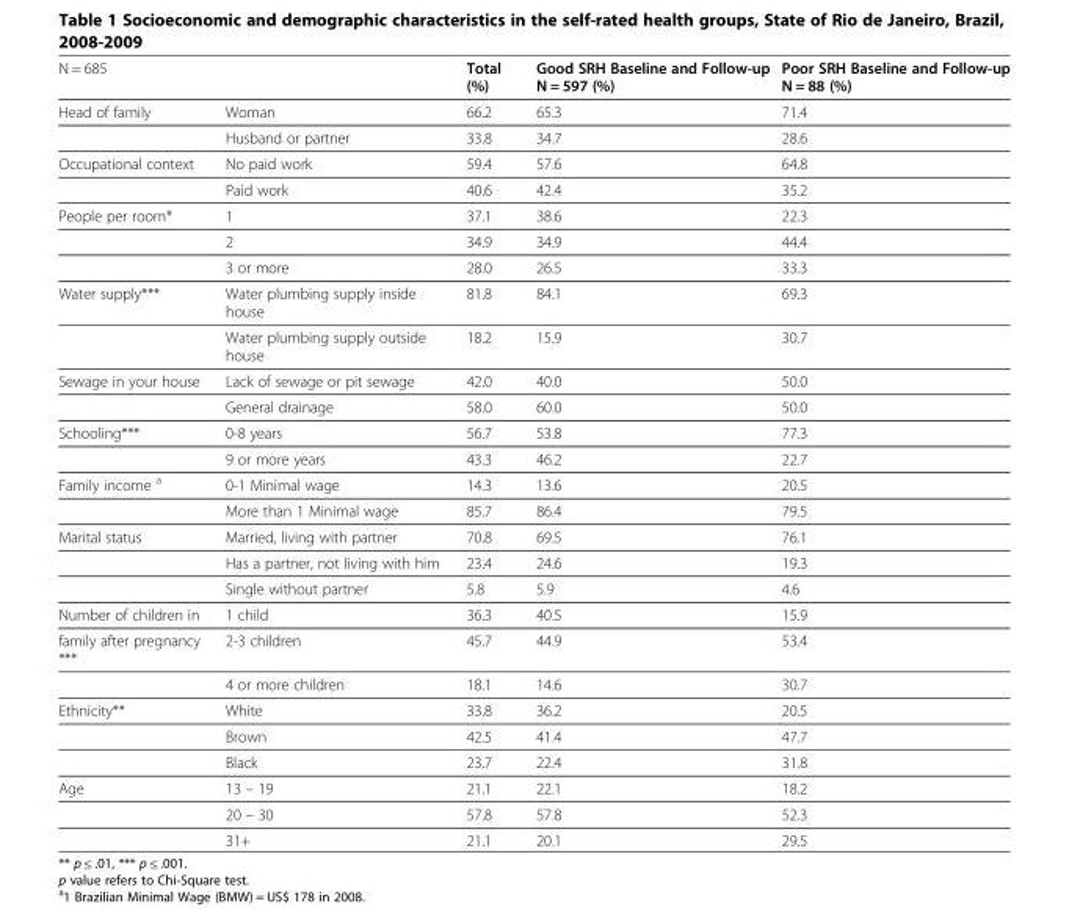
<table><thead><tr><td>N = 685</td><td></td><td>Total (%)</td><td>Good SRH Baseline and Follow-up N = 597 (%)</td><td>Poor SRH Baseline and Follow-up N = 88 (%)</td></tr></thead><tbody><tr><td rowspan="2">Head of family</td><td>Woman</td><td>66.2</td><td>65.3</td><td>71.4</td></tr><tr><td>Husband or partner</td><td>33.8</td><td>34.7</td><td>28.6</td></tr><tr><td rowspan="2">Occupational context</td><td>No paid work</td><td>59.4</td><td>57.6</td><td>64.8</td></tr><tr><td>Paid work</td><td>40.6</td><td>42.4</td><td>35.2</td></tr><tr><td rowspan="3">People per room*</td><td>1</td><td>37.1</td><td>38.6</td><td>22.3</td></tr><tr><td>2</td><td>34.9</td><td>34.9</td><td>44.4</td></tr><tr><td>3 or more</td><td>28.0</td><td>26.5</td><td>33.3</td></tr><tr><td rowspan="2">Water supply***</td><td>Water plumbing supply inside house</td><td>81.8</td><td>84.1</td><td>69.3</td></tr><tr><td>Water plumbing supply outside house</td><td>18.2</td><td>15.9</td><td>30.7</td></tr><tr><td rowspan="2">Sewage in your house</td><td>Lack of sewage or pit sewage</td><td>42.0</td><td>40.0</td><td>50.0</td></tr><tr><td>General drainage</td><td>58.0</td><td>60.0</td><td>50.0</td></tr><tr><td rowspan="2">Schooling***</td><td>0-8 years</td><td>56.7</td><td>53.8</td><td>77.3</td></tr><tr><td>9 or more years</td><td>43.3</td><td>46.2</td><td>22.7</td></tr><tr><td rowspan="2">Family income <sup>a</sup></td><td>0-1 Minimal wage</td><td>14.3</td><td>13.6</td><td>20.5</td></tr><tr><td>More than 1 Minimal wage</td><td>85.7</td><td>86.4</td><td>79.5</td></tr><tr><td rowspan="3">Marital status</td><td>Married, living with partner</td><td>70.8</td><td>69.5</td><td>76.1</td></tr><tr><td>Has a partner, not living with him</td><td>23.4</td><td>24.6</td><td>19.3</td></tr><tr><td>Single without partner</td><td>5.8</td><td>5.9</td><td>4.6</td></tr><tr><td>Number of children in</td><td>1 child</td><td>36.3</td><td>40.5</td><td>15.9</td></tr><tr><td rowspan="2">family after pregnancy ***</td><td>2-3 children</td><td>45.7</td><td>44.9</td><td>53.4</td></tr><tr><td>4 or more children</td><td>18.1</td><td>14.6</td><td>30.7</td></tr><tr><td rowspan="3">Ethnicity**</td><td>White</td><td>33.8</td><td>36.2</td><td>20.5</td></tr><tr><td>Brown</td><td>42.5</td><td>41.4</td><td>47.7</td></tr><tr><td>Black</td><td>23.7</td><td>22.4</td><td>31.8</td></tr><tr><td rowspan="3">Age</td><td>13 – 19</td><td>21.1</td><td>22.1</td><td>18.2</td></tr><tr><td>20 – 30</td><td>57.8</td><td>57.8</td><td>52.3</td></tr><tr><td>31+</td><td>21.1</td><td>20.1</td><td>29.5</td></tr></tbody></table>